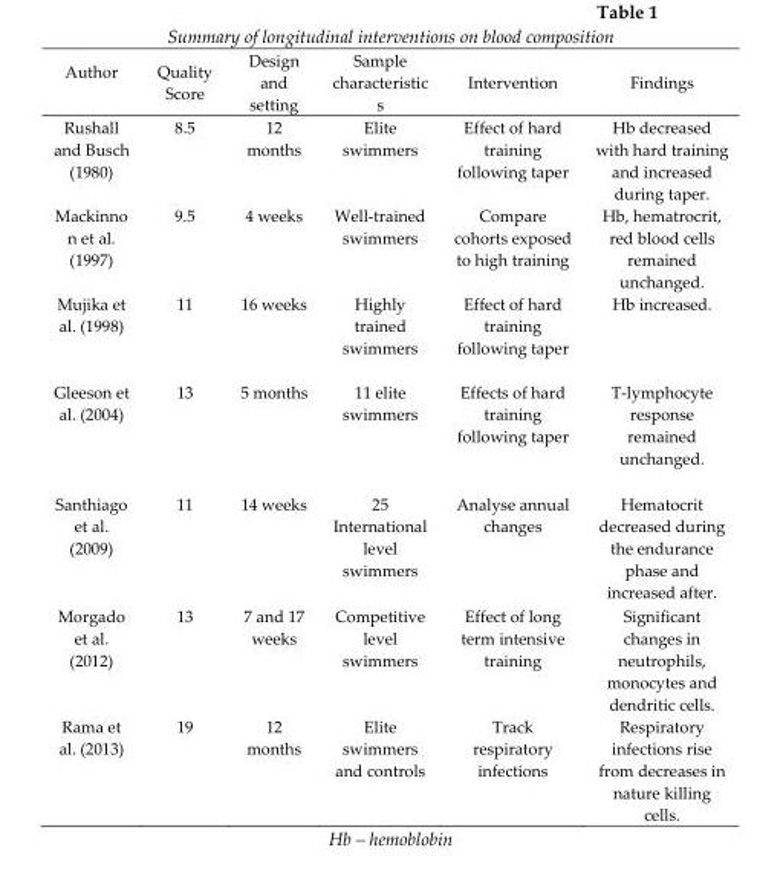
<table><thead><tr><td>Author</td><td>Quality Score</td><td>Design and setting</td><td>Sample characteristic s</td><td>Intervention</td><td>Findings</td></tr></thead><tbody><tr><td>Rushall and Busch (1980)</td><td>8.5</td><td>12 months</td><td>Elite swimmers</td><td>Effect of hard training following taper</td><td>Hb decreased with hard training and increased during taper.</td></tr><tr><td>Mackinno n et al. (1997)</td><td>9.5</td><td>4 weeks</td><td>Well-trained swimmers</td><td>Compare cohorts exposed to high training</td><td>Hb, hematrocrit, red blood cells remained unchanged.</td></tr><tr><td>Mujika et al. (1998)</td><td>11</td><td>16 weeks</td><td>Highly trained swimmers</td><td>Effect of hard training following taper</td><td>Hb increased.</td></tr><tr><td>Gleeson et al. (2004)</td><td>13</td><td>5 months</td><td>11 elite swimmers</td><td>Effects of hard training following taper</td><td>T-lymphocyte response remained unchanged.</td></tr><tr><td>Santhiago et al. (2009)</td><td>11</td><td>14 weeks</td><td>25 International level swimmers</td><td>Analyse annual changes</td><td>Hematocrit decreased during the endurance phase and increased after.</td></tr><tr><td>Morgado et al. (2012)</td><td>13</td><td>7 and 17 weeks</td><td>Competitive level swimmers</td><td>Effect of long term intensive training</td><td>Significant changes in neutrophils, monocytes and dendritic cells.</td></tr><tr><td>Rama et al. (2013)</td><td>19</td><td>12 months</td><td>Elite swimmers and controls</td><td>Track respiratory infections</td><td>Respiratory infections rise from decreases in nature killing cells.</td></tr></tbody></table>